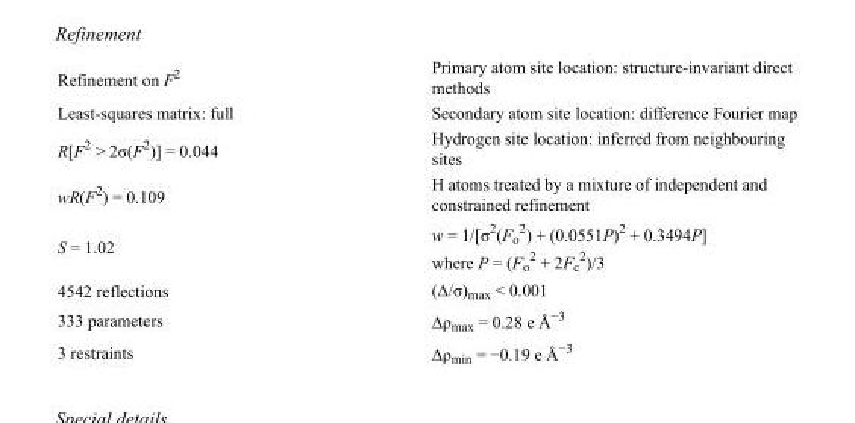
<table><tbody><tr><td>Refinement on F<sup>2</sup></td><td>Primary atom site location: structure-invariant direct methods</td></tr><tr><td>Least-squares matrix: full</td><td>Secondary atom site location: difference Fourier map</td></tr><tr><td>R[F<sup>2</sup> &gt; 2σ(F<sup>2</sup>)] = 0.044</td><td>Hydrogen site location: inferred from neighbouring sites</td></tr><tr><td>wR(F<sup>2</sup>) = 0.109</td><td>H atoms treated by a mixture of independent and constrained refinement</td></tr><tr><td>S = 1.02</td><td>w = 1/[σ<sup>2</sup>(F<sub>o</sub> <sup>2</sup>) + (0.0551P)<sup>2</sup> + 0.3494P] where P = (F<sub>o</sub> <sup>2</sup> + 2F<sub>c</sub> <sup>2</sup>)/3</td></tr><tr><td>4542 reflections</td><td>(Δ/σ)<sub>max</sub> &lt; 0.001</td></tr><tr><td>333 parameters</td><td>Δρ<sub>max</sub> = 0.28 e Å<sup>−3</sup></td></tr><tr><td>3 restraints</td><td>Δρ<sub>min</sub> = −0.19 e Å<sup>−3</sup></td></tr></tbody></table>